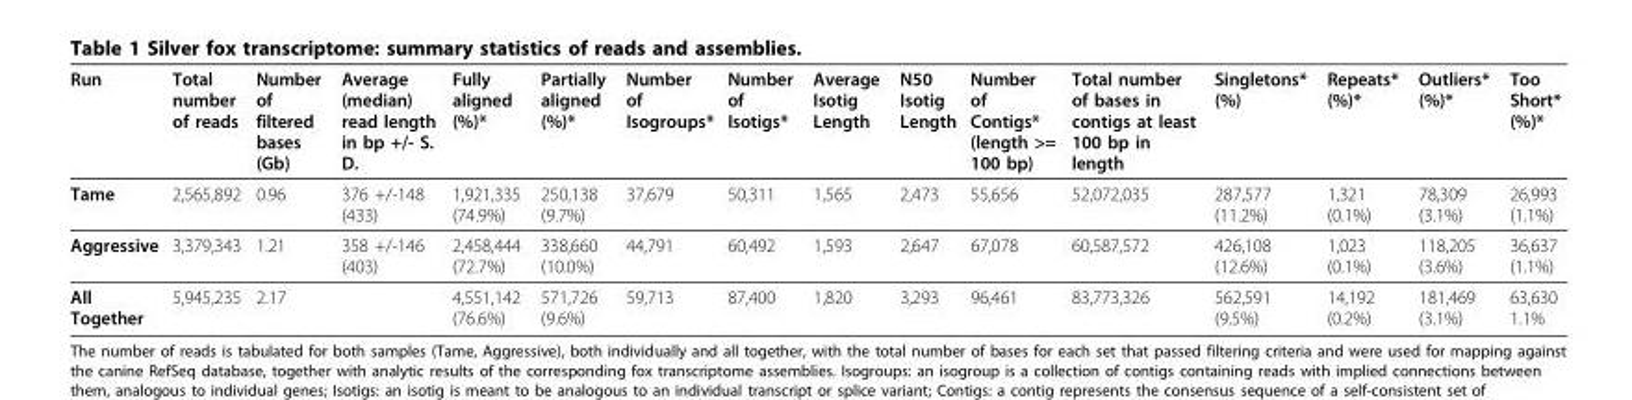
<table><thead><tr><td>Run</td><td>Total number of reads</td><td>Number of filtered bases (Gb)</td><td>Average (median) read length in bp +/- S. D.</td><td>Fully aligned (%)*</td><td>Partially aligned (%)*</td><td>Number of Isogroups*</td><td>Number of Isotigs*</td><td>Average Isotig Length</td><td>N50 Isotig Length</td><td>Number of Contigs* (length &gt;= 100 bp)</td><td>Total number of bases in contigs at least 100 bp in length</td><td>Singletons* (%)</td><td>Repeats* (%)*</td><td>Outliers* (%)*</td><td>Too Short* (%)*</td></tr></thead><tbody><tr><td>Tame</td><td>2,565,892</td><td>0.96</td><td>376 +/-148 (433)</td><td>1,921,335 (74.9%)</td><td>250,138 (9.7%)</td><td>37,679</td><td>50,311</td><td>1,565</td><td>2,473</td><td>55,656</td><td>52,072,035</td><td>287,577 (11.2%)</td><td>1,321 (0.1%)</td><td>78,309 (3.1%)</td><td>26,993 (1.1%)</td></tr><tr><td>Aggressive</td><td>3,379,343</td><td>1.21</td><td>358 +/-146 (403)</td><td>2,458,444 (72.7%)</td><td>338,660 (10.0%)</td><td>44,791</td><td>60,492</td><td>1,593</td><td>2,647</td><td>67,078</td><td>60,587,572</td><td>426,108 (12.6%)</td><td>1,023 (0.1%)</td><td>118,205 (3.6%)</td><td>36,637 (1.1%)</td></tr><tr><td>All Together</td><td>5,945,235</td><td>2.17</td><td></td><td>4,551,142 (76.6%)</td><td>571,726 (9.6%)</td><td>59,713</td><td>87,400</td><td>1,820</td><td>3,293</td><td>96,461</td><td>83,773,326</td><td>562,591 (9.5%)</td><td>14,192 (0.2%)</td><td>181,469 (3.1%)</td><td>63,630 1.1%</td></tr></tbody></table>